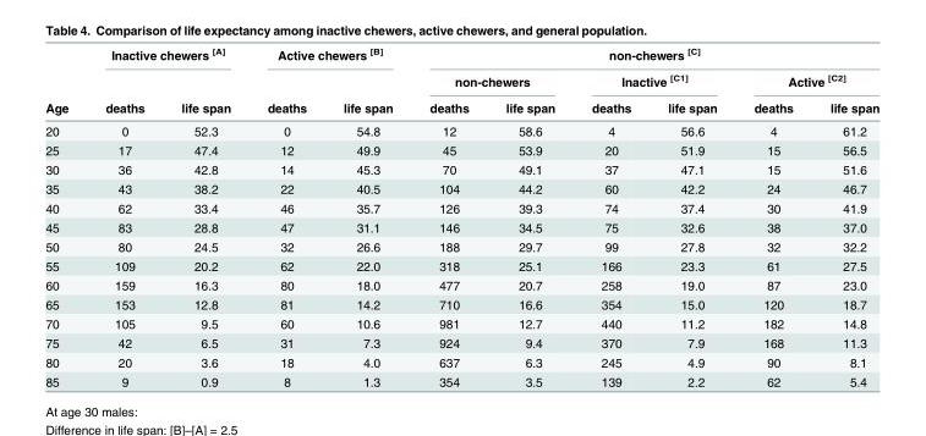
<table><thead><tr><td rowspan="3">Age</td><td colspan="2">Inactive chewers <sup>[A]</sup></td><td colspan="2">Active chewers <sup>[B]</sup></td><td colspan="6">non-chewers <sup>[C]</sup></td></tr><tr><td rowspan="2">deaths</td><td rowspan="2">life span</td><td rowspan="2">deaths</td><td rowspan="2">life span</td><td colspan="2">non-chewers</td><td colspan="2">Inactive <sup>[C1]</sup></td><td colspan="2">Active <sup>[C2]</sup></td></tr><tr><td>deaths</td><td>life span</td><td>deaths</td><td>life span</td><td>deaths</td><td>life span</td></tr></thead><tbody><tr><td>20</td><td>0</td><td>52.3</td><td>0</td><td>54.8</td><td>12</td><td>58.6</td><td>4</td><td>56.6</td><td>4</td><td>61.2</td></tr><tr><td>25</td><td>17</td><td>47.4</td><td>12</td><td>49.9</td><td>45</td><td>53.9</td><td>20</td><td>51.9</td><td>15</td><td>56.5</td></tr><tr><td>30</td><td>36</td><td>42.8</td><td>14</td><td>45.3</td><td>70</td><td>49.1</td><td>37</td><td>47.1</td><td>15</td><td>51.6</td></tr><tr><td>35</td><td>43</td><td>38.2</td><td>22</td><td>40.5</td><td>104</td><td>44.2</td><td>60</td><td>42.2</td><td>24</td><td>46.7</td></tr><tr><td>40</td><td>62</td><td>33.4</td><td>46</td><td>35.7</td><td>126</td><td>39.3</td><td>74</td><td>37.4</td><td>30</td><td>41.9</td></tr><tr><td>45</td><td>83</td><td>28.8</td><td>47</td><td>31.1</td><td>146</td><td>34.5</td><td>75</td><td>32.6</td><td>38</td><td>37.0</td></tr><tr><td>50</td><td>80</td><td>24.5</td><td>32</td><td>26.6</td><td>188</td><td>29.7</td><td>99</td><td>27.8</td><td>32</td><td>32.2</td></tr><tr><td>55</td><td>109</td><td>20.2</td><td>62</td><td>22.0</td><td>318</td><td>25.1</td><td>166</td><td>23.3</td><td>61</td><td>27.5</td></tr><tr><td>60</td><td>159</td><td>16.3</td><td>80</td><td>18.0</td><td>477</td><td>20.7</td><td>258</td><td>19.0</td><td>87</td><td>23.0</td></tr><tr><td>65</td><td>153</td><td>12.8</td><td>81</td><td>14.2</td><td>710</td><td>16.6</td><td>354</td><td>15.0</td><td>120</td><td>18.7</td></tr><tr><td>70</td><td>105</td><td>9.5</td><td>60</td><td>10.6</td><td>981</td><td>12.7</td><td>440</td><td>11.2</td><td>182</td><td>14.8</td></tr><tr><td>75</td><td>42</td><td>6.5</td><td>31</td><td>7.3</td><td>924</td><td>9.4</td><td>370</td><td>7.9</td><td>168</td><td>11.3</td></tr><tr><td>80</td><td>20</td><td>3.6</td><td>18</td><td>4.0</td><td>637</td><td>6.3</td><td>245</td><td>4.9</td><td>90</td><td>8.1</td></tr><tr><td>85</td><td>9</td><td>0.9</td><td>8</td><td>1.3</td><td>354</td><td>3.5</td><td>139</td><td>2.2</td><td>62</td><td>5.4</td></tr></tbody></table>